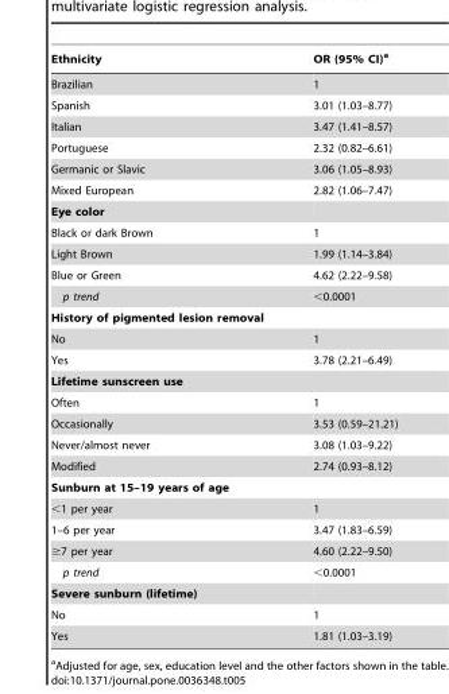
<table><thead><tr><td>Ethnicity</td><td>OR (95% CI)<sup>a</sup></td></tr></thead><tbody><tr><td>Brazilian</td><td>1</td></tr><tr><td>Spanish</td><td>3.01 (1.03–8.77)</td></tr><tr><td>Italian</td><td>3.47 (1.41–8.57)</td></tr><tr><td>Portuguese</td><td>2.32 (0.82–6.61)</td></tr><tr><td>Germanic or Slavic</td><td>3.06 (1.05–8.93)</td></tr><tr><td>Mixed European</td><td>2.82 (1.06–7.47)</td></tr><tr><td colspan="2">Eye color</td></tr><tr><td>Black or dark Brown</td><td>1</td></tr><tr><td>Light Brown</td><td>1.99 (1.14–3.84)</td></tr><tr><td>Blue or Green</td><td>4.62 (2.22–9.58)</td></tr><tr><td>p trend</td><td>&lt;0.0001</td></tr><tr><td colspan="2">History of pigmented lesion removal</td></tr><tr><td>No</td><td>1</td></tr><tr><td>Yes</td><td>3.78 (2.21–6.49)</td></tr><tr><td colspan="2">Lifetime sunscreen use</td></tr><tr><td>Often</td><td>1</td></tr><tr><td>Occasionally</td><td>3.53 (0.59–21.21)</td></tr><tr><td>Never/almost never</td><td>3.08 (1.03–9.22)</td></tr><tr><td>Modified</td><td>2.74 (0.93–8.12)</td></tr><tr><td colspan="2">Sunburn at 15–19 years of age</td></tr><tr><td>&lt;1 per year</td><td>1</td></tr><tr><td>1–6 per year</td><td>3.47 (1.83–6.59)</td></tr><tr><td>≥7 per year</td><td>4.60 (2.22–9.50)</td></tr><tr><td>p trend</td><td>&lt;0.0001</td></tr><tr><td colspan="2">Severe sunburn (lifetime)</td></tr><tr><td>No</td><td>1</td></tr><tr><td>Yes</td><td>1.81 (1.03–3.19)</td></tr></tbody></table>